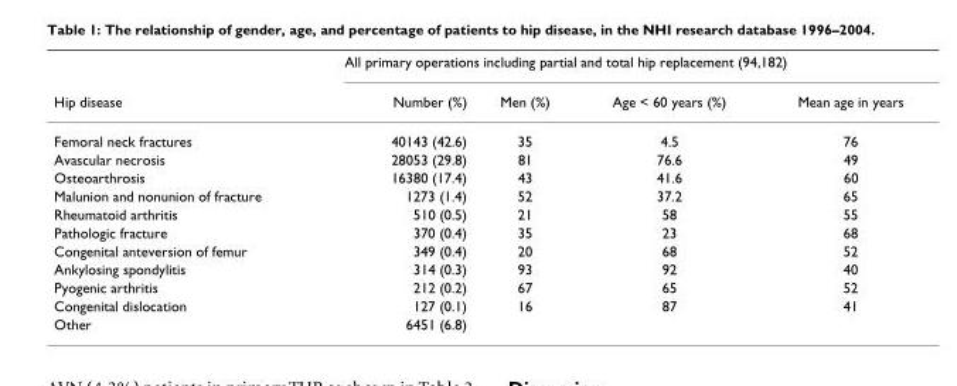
<table><thead><tr><td rowspan="2">Hip disease</td><td colspan="4">All primary operations including partial and total hip replacement (94,182)</td></tr><tr><td>Number (%)</td><td>Men (%)</td><td>Age &lt; 60 years (%)</td><td>Mean age in years</td></tr></thead><tbody><tr><td>Femoral neck fractures</td><td>40143 (42.6)</td><td>35</td><td>4.5</td><td>76</td></tr><tr><td>Avascular necrosis</td><td>28053 (29.8)</td><td>81</td><td>76.6</td><td>49</td></tr><tr><td>Osteoarthrosis</td><td>16380 (17.4)</td><td>43</td><td>41.6</td><td>60</td></tr><tr><td>Malunion and nonunion of fracture</td><td>1273 (1.4)</td><td>52</td><td>37.2</td><td>65</td></tr><tr><td>Rheumatoid arthritis</td><td>510 (0.5)</td><td>21</td><td>58</td><td>55</td></tr><tr><td>Pathologic fracture</td><td>370 (0.4)</td><td>35</td><td>23</td><td>68</td></tr><tr><td>Congenital anteversion of femur</td><td>349 (0.4)</td><td>20</td><td>68</td><td>52</td></tr><tr><td>Ankylosing spondylitis</td><td>314 (0.3)</td><td>93</td><td>92</td><td>40</td></tr><tr><td>Pyogenic arthritis</td><td>212 (0.2)</td><td>67</td><td>65</td><td>52</td></tr><tr><td>Congenital dislocation</td><td>127 (0.1)</td><td>16</td><td>87</td><td>41</td></tr><tr><td>Other</td><td>6451 (6.8)</td><td></td><td></td><td></td></tr></tbody></table>